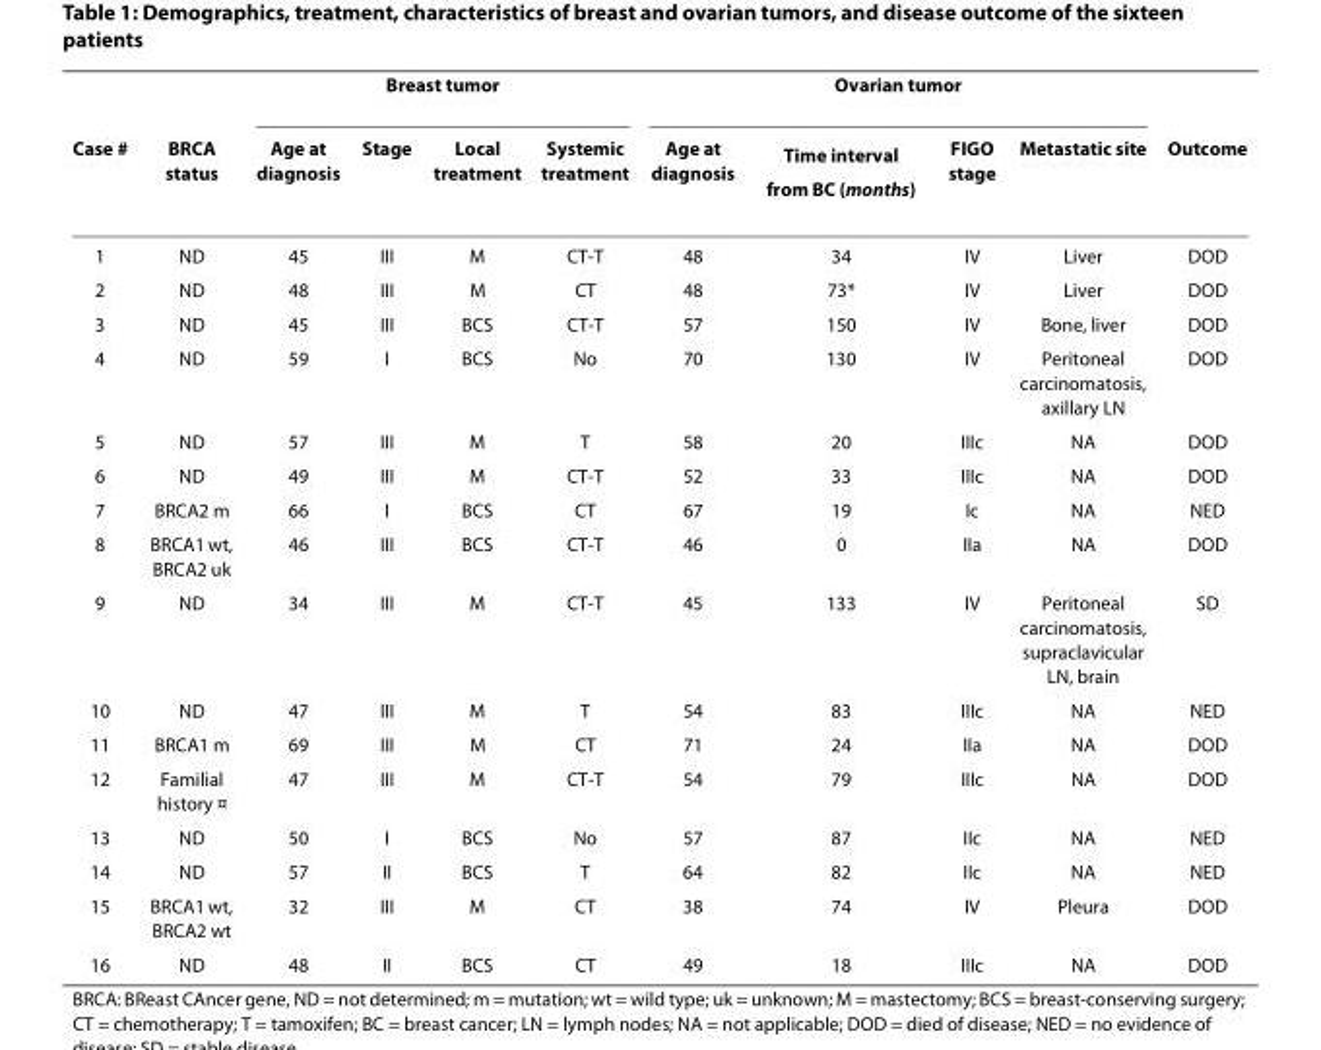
<table><thead><tr><td rowspan="2">Case #</td><td rowspan="2">BRCA status</td><td colspan="4">Breast tumor</td><td colspan="4">Ovarian tumor</td><td rowspan="2">Outcome</td></tr><tr><td>Age at diagnosis</td><td>Stage</td><td>Local treatment</td><td>Systemic treatment</td><td>Age at diagnosis</td><td>Time interval from BC (months)</td><td>FIGO stage</td><td>Metastatic site</td></tr></thead><tbody><tr><td>1</td><td>ND</td><td>45</td><td>III</td><td>M</td><td>CT-T</td><td>48</td><td>34</td><td>IV</td><td>Liver</td><td>DOD</td></tr><tr><td>2</td><td>ND</td><td>48</td><td>III</td><td>M</td><td>CT</td><td>48</td><td>73*</td><td>IV</td><td>Liver</td><td>DOD</td></tr><tr><td>3</td><td>ND</td><td>45</td><td>III</td><td>BCS</td><td>CT-T</td><td>57</td><td>150</td><td>IV</td><td>Bone, liver</td><td>DOD</td></tr><tr><td>4</td><td>ND</td><td>59</td><td>I</td><td>BCS</td><td>No</td><td>70</td><td>130</td><td>IV</td><td>Peritoneal carcinomatosis, axillary LN</td><td>DOD</td></tr><tr><td>5</td><td>ND</td><td>57</td><td>III</td><td>M</td><td>T</td><td>58</td><td>20</td><td>IIIc</td><td>NA</td><td>DOD</td></tr><tr><td>6</td><td>ND</td><td>49</td><td>III</td><td>M</td><td>CT-T</td><td>52</td><td>33</td><td>IIIc</td><td>NA</td><td>DOD</td></tr><tr><td>7</td><td>BRCA2 m</td><td>66</td><td>I</td><td>BCS</td><td>CT</td><td>67</td><td>19</td><td>Ic</td><td>NA</td><td>NED</td></tr><tr><td>8</td><td>BRCA1 wt, BRCA2 uk</td><td>46</td><td>III</td><td>BCS</td><td>CT-T</td><td>46</td><td>0</td><td>IIa</td><td>NA</td><td>DOD</td></tr><tr><td>9</td><td>ND</td><td>34</td><td>III</td><td>M</td><td>CT-T</td><td>45</td><td>133</td><td>IV</td><td>Peritoneal carcinomatosis, supraclavicular LN, brain</td><td>SD</td></tr><tr><td>10</td><td>ND</td><td>47</td><td>III</td><td>M</td><td>T</td><td>54</td><td>83</td><td>IIIc</td><td>NA</td><td>NED</td></tr><tr><td>11</td><td>BRCA1 m</td><td>69</td><td>III</td><td>M</td><td>CT</td><td>71</td><td>24</td><td>IIa</td><td>NA</td><td>DOD</td></tr><tr><td>12</td><td>Familial history ¤</td><td>47</td><td>III</td><td>M</td><td>CT-T</td><td>54</td><td>79</td><td>IIIc</td><td>NA</td><td>DOD</td></tr><tr><td>13</td><td>ND</td><td>50</td><td>I</td><td>BCS</td><td>No</td><td>57</td><td>87</td><td>IIc</td><td>NA</td><td>NED</td></tr><tr><td>14</td><td>ND</td><td>57</td><td>II</td><td>BCS</td><td>T</td><td>64</td><td>82</td><td>IIc</td><td>NA</td><td>NED</td></tr><tr><td>15</td><td>BRCA1 wt, BRCA2 wt</td><td>32</td><td>III</td><td>M</td><td>CT</td><td>38</td><td>74</td><td>IV</td><td>Pleura</td><td>DOD</td></tr><tr><td>16</td><td>ND</td><td>48</td><td>II</td><td>BCS</td><td>CT</td><td>49</td><td>18</td><td>IIIc</td><td>NA</td><td>DOD</td></tr></tbody></table>